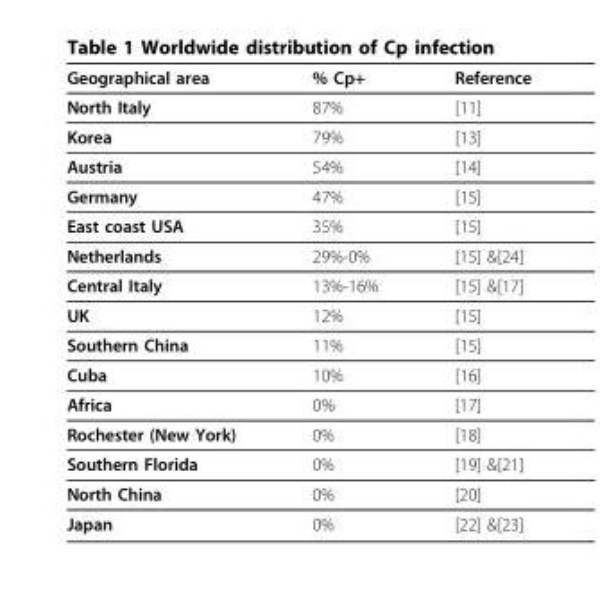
<table><thead><tr><td>Geographical area</td><td>% Cp+</td><td>Reference</td></tr></thead><tbody><tr><td>North Italy</td><td>87%</td><td>[11]</td></tr><tr><td>Korea</td><td>79%</td><td>[13]</td></tr><tr><td>Austria</td><td>54%</td><td>[14]</td></tr><tr><td>Germany</td><td>47%</td><td>[15]</td></tr><tr><td>East coast USA</td><td>35%</td><td>[15]</td></tr><tr><td>Netherlands</td><td>29%-0%</td><td>[15] &amp;[24]</td></tr><tr><td>Central Italy</td><td>13%-16%</td><td>[15] &amp;[17]</td></tr><tr><td>UK</td><td>12%</td><td>[15]</td></tr><tr><td>Southern China</td><td>11%</td><td>[15]</td></tr><tr><td>Cuba</td><td>10%</td><td>[16]</td></tr><tr><td>Africa</td><td>0%</td><td>[17]</td></tr><tr><td>Rochester (New York)</td><td>0%</td><td>[18]</td></tr><tr><td>Southern Florida</td><td>0%</td><td>[19] &amp;[21]</td></tr><tr><td>North China</td><td>0%</td><td>[20]</td></tr><tr><td>Japan</td><td>0%</td><td>[22] &amp;[23]</td></tr></tbody></table>